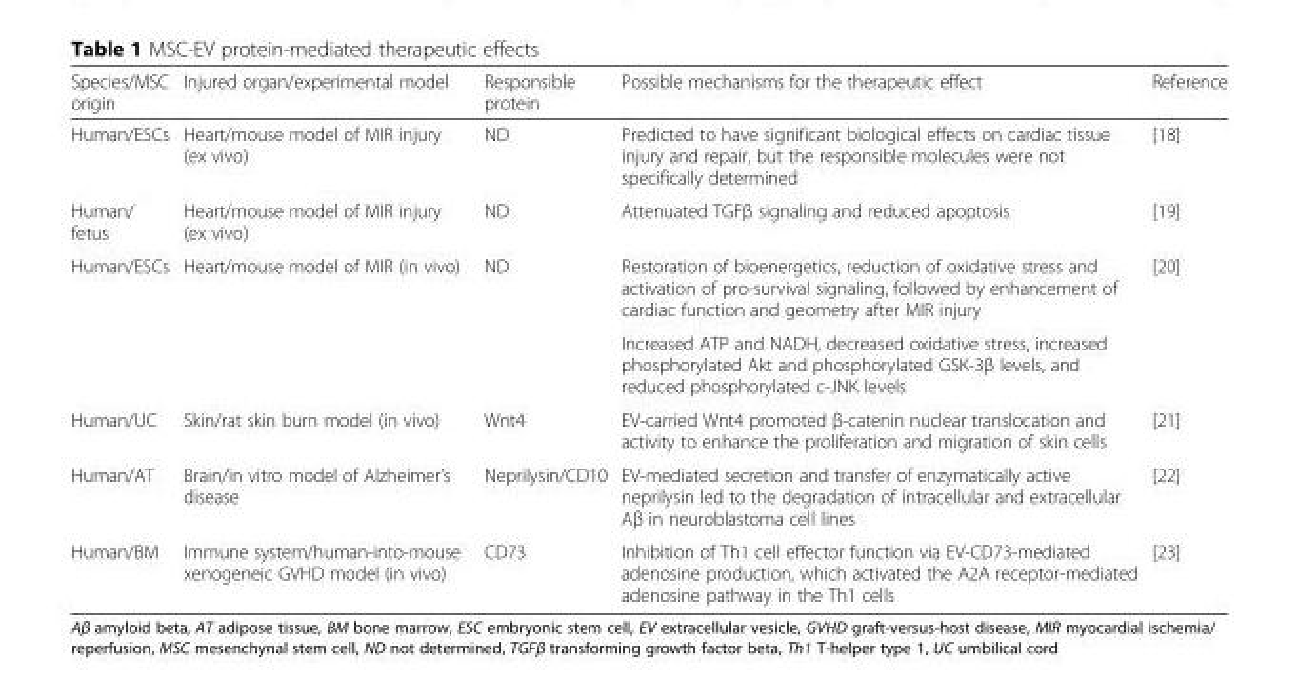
<table><thead><tr><td>Species/MSC origin</td><td>Injured organ/experimental model</td><td>Responsible protein</td><td>Possible mechanisms for the therapeutic effect</td><td>Reference</td></tr></thead><tbody><tr><td>Human/ESCs</td><td>Heart/mouse model of MIR injury (ex vivo)</td><td>ND</td><td>Predicted to have significant biological effects on cardiac tissue injury and repair, but the responsible molecules were not specifically determined</td><td>[18]</td></tr><tr><td>Human/ fetus</td><td>Heart/mouse model of MIR injury (ex vivo)</td><td>ND</td><td>Attenuated TGFβ signaling and reduced apoptosis</td><td>[19]</td></tr><tr><td rowspan="2">Human/ESCs</td><td>Heart/mouse model of MIR (in vivo)</td><td>ND</td><td>Restoration of bioenergetics, reduction of oxidative stress and activation of pro-survival signaling, followed by enhancement of cardiac function and geometry after MIR injury</td><td>[20]</td></tr><tr><td></td><td></td><td>Increased ATP and NADH, decreased oxidative stress, increased phosphorylated Akt and phosphorylated GSK-3β levels, and reduced phosphorylated c-JNK levels</td><td></td></tr><tr><td>Human/UC</td><td>Skin/rat skin burn model (in vivo)</td><td>Wnt4</td><td>EV-carried Wnt4 promoted β-catenin nuclear translocation and activity to enhance the proliferation and migration of skin cells</td><td>[21]</td></tr><tr><td>Human/AT</td><td>Brain/in vitro model of Alzheimer’s disease</td><td>Neprilysin/CD10</td><td>EV-mediated secretion and transfer of enzymatically active neprilysin led to the degradation of intracellular and extracellular Aβ in neuroblastoma cell lines</td><td>[22]</td></tr><tr><td>Human/BM</td><td>Immune system/human-into-mouse xenogeneic GVHD model (in vivo)</td><td>CD73</td><td>Inhibition of Th1 cell effector function via EV-CD73-mediated adenosine production, which activated the A2A receptor-mediated adenosine pathway in the Th1 cells</td><td>[23]</td></tr></tbody></table>